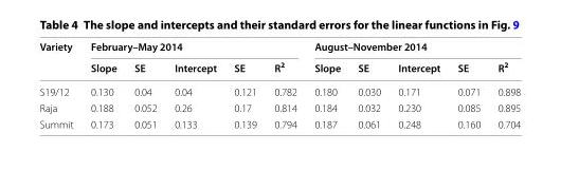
<table><thead><tr><td rowspan="2">Variety</td><td colspan="5">February–May 2014</td><td colspan="5">August–November 2014</td></tr><tr><td>Slope</td><td>SE</td><td>Intercept</td><td>SE</td><td>R<sup>2</sup></td><td>Slope</td><td>SE</td><td>Intercept</td><td>SE</td><td>R<sup>2</sup></td></tr></thead><tbody><tr><td>S19/12</td><td>0.130</td><td>0.04</td><td>0.04</td><td>0.121</td><td>0.782</td><td>0.180</td><td>0.030</td><td>0.171</td><td>0.071</td><td>0.898</td></tr><tr><td>Raja</td><td>0.188</td><td>0.052</td><td>0.26</td><td>0.17</td><td>0.814</td><td>0.184</td><td>0.032</td><td>0.230</td><td>0.085</td><td>0.895</td></tr><tr><td>Summit</td><td>0.173</td><td>0.051</td><td>0.133</td><td>0.139</td><td>0.794</td><td>0.187</td><td>0.061</td><td>0.248</td><td>0.160</td><td>0.704</td></tr></tbody></table>